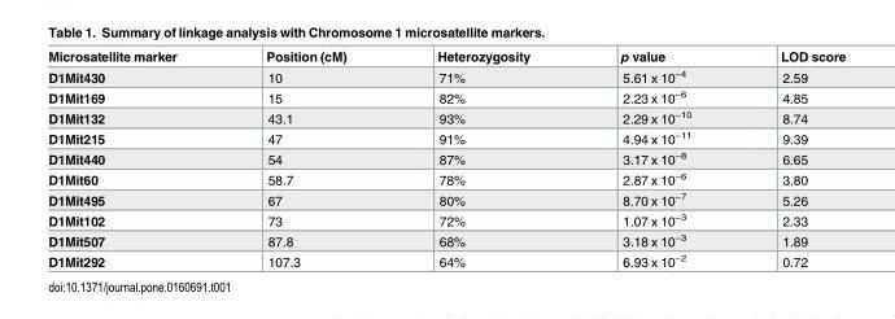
<table><thead><tr><td>Microsatellite marker</td><td>Position (cM)</td><td>Heterozygosity</td><td>p value</td><td>LOD score</td></tr></thead><tbody><tr><td>D1Mit430</td><td>10</td><td>71%</td><td>5.61 x 10<sup>−4</sup></td><td>2.59</td></tr><tr><td>D1Mit169</td><td>15</td><td>82%</td><td>2.23 x 10<sup>−6</sup></td><td>4.85</td></tr><tr><td>D1Mit132</td><td>43.1</td><td>93%</td><td>2.29 x 10<sup>−10</sup></td><td>8.74</td></tr><tr><td>D1Mit215</td><td>47</td><td>91%</td><td>4.94 x 10<sup>−11</sup></td><td>9.39</td></tr><tr><td>D1Mit440</td><td>54</td><td>87%</td><td>3.17 x 10<sup>−8</sup></td><td>6.65</td></tr><tr><td>D1Mit60</td><td>58.7</td><td>78%</td><td>2.87 x 10<sup>−6</sup></td><td>3.80</td></tr><tr><td>D1Mit495</td><td>67</td><td>80%</td><td>8.70 x 10<sup>−7</sup></td><td>5.26</td></tr><tr><td>D1Mit102</td><td>73</td><td>72%</td><td>1.07 x 10<sup>−3</sup></td><td>2.33</td></tr><tr><td>D1Mit507</td><td>87.8</td><td>68%</td><td>3.18 x 10<sup>−3</sup></td><td>1.89</td></tr><tr><td>D1Mit292</td><td>107.3</td><td>64%</td><td>6.93 x 10<sup>−2</sup></td><td>0.72</td></tr></tbody></table>